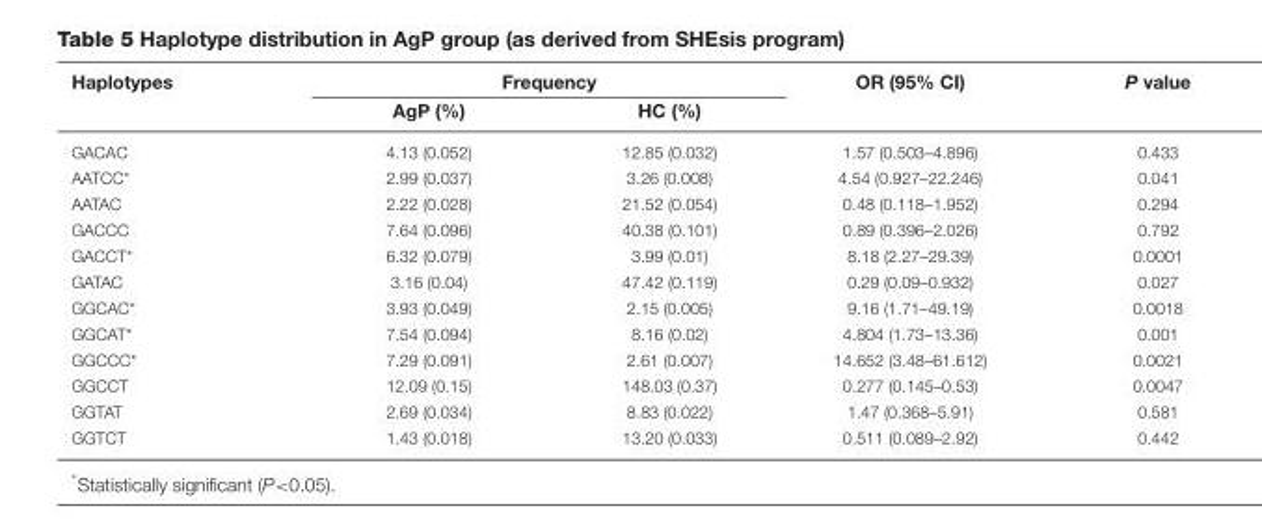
<table><thead><tr><td rowspan="2">Haplotypes</td><td colspan="2">Frequency</td><td rowspan="2">OR (95% CI)</td><td rowspan="2">P value</td></tr><tr><td>AgP (%)</td><td>HC (%)</td></tr></thead><tbody><tr><td>GACAC</td><td>4.13 (0.052)</td><td>12.85 (0.032)</td><td>1.57 (0.503–4.896)</td><td>0.433</td></tr><tr><td>AATCC*</td><td>2.99 (0.037)</td><td>3.26 (0.008)</td><td>4.54 (0.927–22.246)</td><td>0.041</td></tr><tr><td>AATAC</td><td>2.22 (0.028)</td><td>21.52 (0.054)</td><td>0.48 (0.118–1.952)</td><td>0.294</td></tr><tr><td>GACCC</td><td>7.64 (0.096)</td><td>40.38 (0.101)</td><td>0.89 (0.396–2.026)</td><td>0.792</td></tr><tr><td>GACCT*</td><td>6.32 (0.079)</td><td>3.99 (0.01)</td><td>8.18 (2.27–29.39)</td><td>0.0001</td></tr><tr><td>GATAC</td><td>3.16 (0.04)</td><td>47.42 (0.119)</td><td>0.29 (0.09–0.932)</td><td>0.027</td></tr><tr><td>GGCAC*</td><td>3.93 (0.049)</td><td>2.15 (0.005)</td><td>9.16 (1.71–49.19)</td><td>0.0018</td></tr><tr><td>GGCAT*</td><td>7.54 (0.094)</td><td>8.16 (0.02)</td><td>4.804 (1.73–13.36)</td><td>0.001</td></tr><tr><td>GGCCC*</td><td>7.29 (0.091)</td><td>2.61 (0.007)</td><td>14.652 (3.48–61.612)</td><td>0.0021</td></tr><tr><td>GGCCT</td><td>12.09 (0.15)</td><td>148.03 (0.37)</td><td>0.277 (0.145–0.53)</td><td>0.0047</td></tr><tr><td>GGTAT</td><td>2.69 (0.034)</td><td>8.83 (0.022)</td><td>1.47 (0.368–5.91)</td><td>0.581</td></tr><tr><td>GGTCT</td><td>1.43 (0.018)</td><td>13.20 (0.033)</td><td>0.511 (0.089–2.92)</td><td>0.442</td></tr></tbody></table>